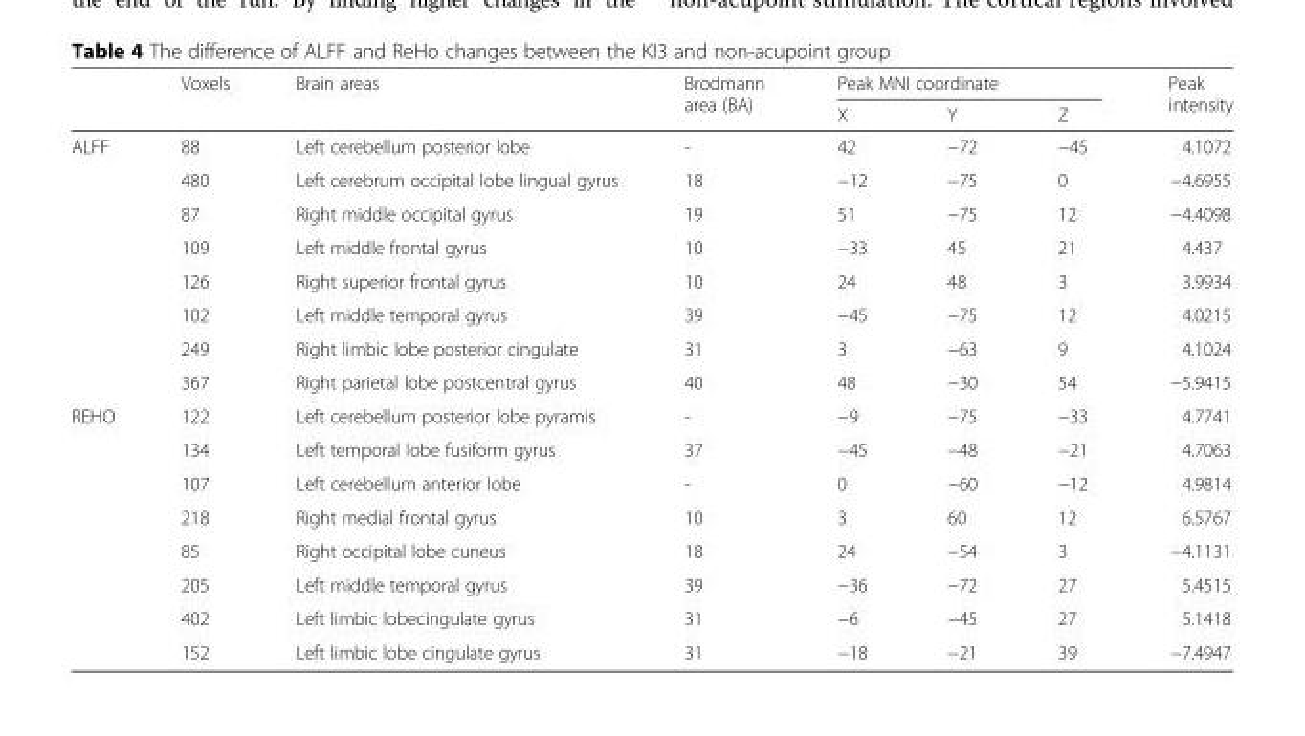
<table><thead><tr><td rowspan="2"></td><td rowspan="2">Voxels</td><td rowspan="2">Brain areas</td><td rowspan="2">Brodmann area (BA)</td><td colspan="3">Peak MNI coordinate</td><td rowspan="2">Peak intensity</td></tr><tr><td>X</td><td>Y</td><td>Z</td></tr></thead><tbody><tr><td rowspan="8">ALFF</td><td>88</td><td>Left cerebellum posterior lobe</td><td>-</td><td>42</td><td>−72</td><td>−45</td><td>4.1072</td></tr><tr><td>480</td><td>Left cerebrum occipital lobe lingual gyrus</td><td>18</td><td>−12</td><td>−75</td><td>0</td><td>−4.6955</td></tr><tr><td>87</td><td>Right middle occipital gyrus</td><td>19</td><td>51</td><td>−75</td><td>12</td><td>−4.4098</td></tr><tr><td>109</td><td>Left middle frontal gyrus</td><td>10</td><td>−33</td><td>45</td><td>21</td><td>4.437</td></tr><tr><td>126</td><td>Right superior frontal gyrus</td><td>10</td><td>24</td><td>48</td><td>3</td><td>3.9934</td></tr><tr><td>102</td><td>Left middle temporal gyrus</td><td>39</td><td>−45</td><td>−75</td><td>12</td><td>4.0215</td></tr><tr><td>249</td><td>Right limbic lobe posterior cingulate</td><td>31</td><td>3</td><td>−63</td><td>9</td><td>4.1024</td></tr><tr><td>367</td><td>Right parietal lobe postcentral gyrus</td><td>40</td><td>48</td><td>−30</td><td>54</td><td>−5.9415</td></tr><tr><td rowspan="8">REHO</td><td>122</td><td>Left cerebellum posterior lobe pyramis</td><td>-</td><td>−9</td><td>−75</td><td>−33</td><td>4.7741</td></tr><tr><td>134</td><td>Left temporal lobe fusiform gyrus</td><td>37</td><td>−45</td><td>−48</td><td>−21</td><td>4.7063</td></tr><tr><td>107</td><td>Left cerebellum anterior lobe</td><td>-</td><td>0</td><td>−60</td><td>−12</td><td>4.9814</td></tr><tr><td>218</td><td>Right medial frontal gyrus</td><td>10</td><td>3</td><td>60</td><td>12</td><td>6.5767</td></tr><tr><td>85</td><td>Right occipital lobe cuneus</td><td>18</td><td>24</td><td>−54</td><td>3</td><td>−4.1131</td></tr><tr><td>205</td><td>Left middle temporal gyrus</td><td>39</td><td>−36</td><td>−72</td><td>27</td><td>5.4515</td></tr><tr><td>402</td><td>Left limbic lobecingulate gyrus</td><td>31</td><td>−6</td><td>−45</td><td>27</td><td>5.1418</td></tr><tr><td>152</td><td>Left limbic lobe cingulate gyrus</td><td>31</td><td>−18</td><td>−21</td><td>39</td><td>−7.4947</td></tr></tbody></table>